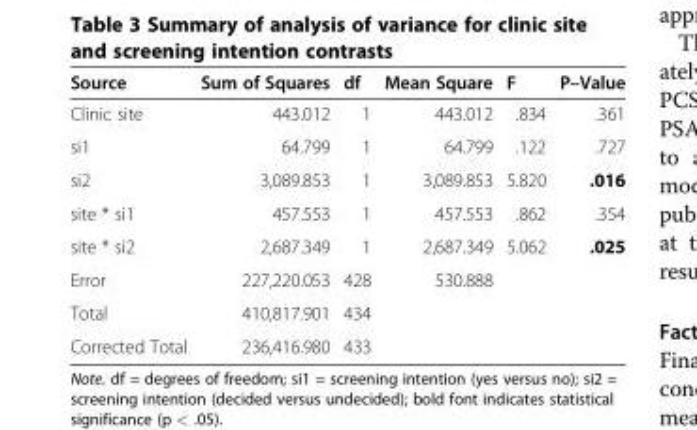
<table><thead><tr><td>Source</td><td>Sum of Squares</td><td>df</td><td>Mean Square</td><td>F</td><td>P–Value</td></tr></thead><tbody><tr><td>Clinic site</td><td>443.012</td><td>1</td><td>443.012</td><td>.834</td><td>.361</td></tr><tr><td>si1</td><td>64.799</td><td>1</td><td>64.799</td><td>.122</td><td>.727</td></tr><tr><td>si2</td><td>3,089.853</td><td>1</td><td>3,089.853</td><td>5.820</td><td>.016</td></tr><tr><td>site * si1</td><td>457.553</td><td>1</td><td>457.553</td><td>.862</td><td>.354</td></tr><tr><td>site * si2</td><td>2,687.349</td><td>1</td><td>2,687.349</td><td>5.062</td><td>.025</td></tr><tr><td>Error</td><td>227,220.053</td><td>428</td><td>530.888</td><td></td><td></td></tr><tr><td>Total</td><td>410,817.901</td><td>434</td><td></td><td></td><td></td></tr><tr><td>Corrected Total</td><td>236,416.980</td><td>433</td><td></td><td></td><td></td></tr></tbody></table>